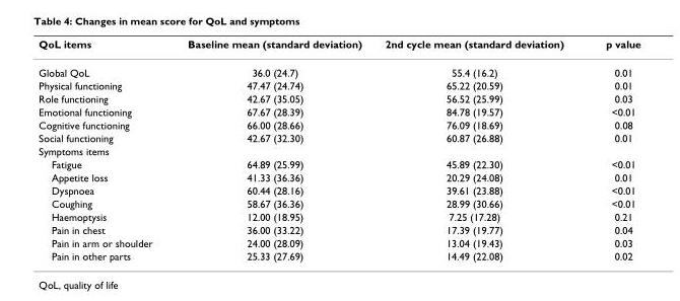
<table><thead><tr><td>QoL items</td><td>Baseline mean (standard deviation)</td><td>2nd cycle mean (standard deviation)</td><td>p value</td></tr></thead><tbody><tr><td>Global QoL</td><td>36.0 (24.7)</td><td>55.4 (16.2)</td><td>0.01</td></tr><tr><td>Physical functioning</td><td>47.47 (24.74)</td><td>65.22 (20.59)</td><td>0.01</td></tr><tr><td>Role functioning</td><td>42.67 (35.05)</td><td>56.52 (25.99)</td><td>0.03</td></tr><tr><td>Emotional functioning</td><td>67.67 (28.39)</td><td>84.78 (19.57)</td><td>&lt;0.01</td></tr><tr><td>Cognitive functioning</td><td>66.00 (28.66)</td><td>76.09 (18.69)</td><td>0.08</td></tr><tr><td>Social functioning</td><td>42.67 (32.30)</td><td>60.87 (26.88)</td><td>0.01</td></tr><tr><td colspan="4">Symptoms items</td></tr><tr><td>Fatigue</td><td>64.89 (25.99)</td><td>45.89 (22.30)</td><td>&lt;0.01</td></tr><tr><td>Appetite loss</td><td>41.33 (36.36)</td><td>20.29 (24.08)</td><td>0.01</td></tr><tr><td>Dyspnoea</td><td>60.44 (28.16)</td><td>39.61 (23.88)</td><td>&lt;0.01</td></tr><tr><td>Coughing</td><td>58.67 (36.36)</td><td>28.99 (30.66)</td><td>&lt;0.01</td></tr><tr><td>Haemoptysis</td><td>12.00 (18.95)</td><td>7.25 (17.28)</td><td>0.21</td></tr><tr><td>Pain in chest</td><td>36.00 (33.22)</td><td>17.39 (19.77)</td><td>0.04</td></tr><tr><td>Pain in arm or shoulder</td><td>24.00 (28.09)</td><td>13.04 (19.43)</td><td>0.03</td></tr><tr><td>Pain in other parts</td><td>25.33 (27.69)</td><td>14.49 (22.08)</td><td>0.02</td></tr></tbody></table>